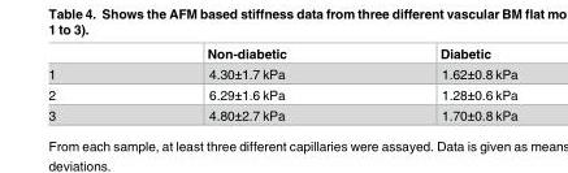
<table><thead><tr><td></td><td>Non-diabetic</td><td>Diabetic</td></tr></thead><tbody><tr><td>1</td><td>4.30±1.7 kPa</td><td>1.62±0.8 kPa</td></tr><tr><td>2</td><td>6.29±1.6 kPa</td><td>1.28±0.6 kPa</td></tr><tr><td>3</td><td>4.80±2.7 kPa</td><td>1.70±0.8 kPa</td></tr></tbody></table>